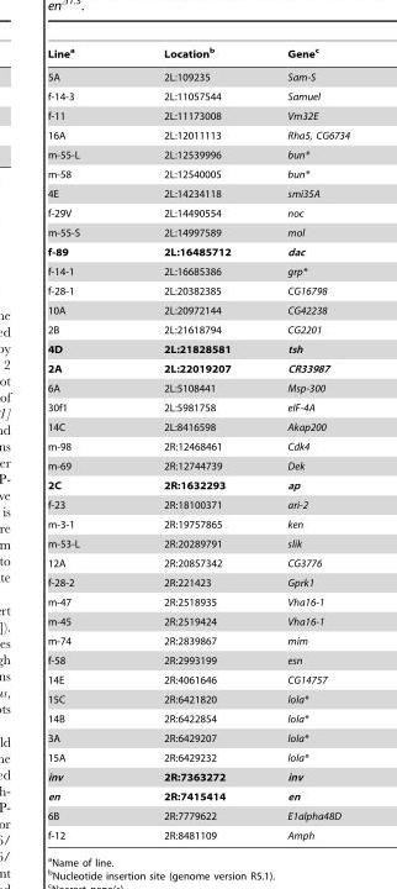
<table><thead><tr><td>Line<sup>a</sup></td><td>Location<sup>b</sup></td><td>Gene<sup>c</sup></td></tr></thead><tbody><tr><td>5A</td><td>2L:109235</td><td>Sam-S</td></tr><tr><td>f-14-3</td><td>2L:11057544</td><td>Samuel</td></tr><tr><td>f-11</td><td>2L:11173008</td><td>Vm32E</td></tr><tr><td>16A</td><td>2L:12011113</td><td>Rha5, CG6734</td></tr><tr><td>m-55-L</td><td>2L:12539996</td><td>bun*</td></tr><tr><td>m-58</td><td>2L:12540005</td><td>bun*</td></tr><tr><td>4E</td><td>2L:14234118</td><td>smi35A</td></tr><tr><td>f-29V</td><td>2L:14490554</td><td>noc</td></tr><tr><td>m-55-S</td><td>2L:14997589</td><td>mol</td></tr><tr><td>f-89</td><td>2L:16485712</td><td>dac</td></tr><tr><td>f-14-1</td><td>2L:16685386</td><td>grp*</td></tr><tr><td>f-28-1</td><td>2L:20382385</td><td>CG16798</td></tr><tr><td>10A</td><td>2L:20972144</td><td>CG42238</td></tr><tr><td>2B</td><td>2L:21618794</td><td>CG2201</td></tr><tr><td>4D</td><td>2L:21828581</td><td>tsh</td></tr><tr><td>2A</td><td>2L:22019207</td><td>CR33987</td></tr><tr><td>6A</td><td>2L:5108441</td><td>Msp-300</td></tr><tr><td>30f1</td><td>2L:5981758</td><td>eIF-4A</td></tr><tr><td>14C</td><td>2L:8416598</td><td>Akap200</td></tr><tr><td>m-98</td><td>2R:12468461</td><td>Cdk4</td></tr><tr><td>m-69</td><td>2R:12744739</td><td>Dek</td></tr><tr><td>2C</td><td>2R:1632293</td><td>ap</td></tr><tr><td>f-23</td><td>2R:18100371</td><td>ari-2</td></tr><tr><td>m-3-1</td><td>2R:19757865</td><td>ken</td></tr><tr><td>m-53-L</td><td>2R:20289791</td><td>slik</td></tr><tr><td>12A</td><td>2R:20857342</td><td>CG3776</td></tr><tr><td>f-28-2</td><td>2R:221423</td><td>Gprk1</td></tr><tr><td>m-47</td><td>2R:2518935</td><td>Vha16-1</td></tr><tr><td>m-45</td><td>2R:2519424</td><td>Vha16-1</td></tr><tr><td>m-74</td><td>2R:2839867</td><td>mim</td></tr><tr><td>f-58</td><td>2R:2993199</td><td>esn</td></tr><tr><td>14E</td><td>2R:4061646</td><td>CG14757</td></tr><tr><td>15C</td><td>2R:6421820</td><td>lola*</td></tr><tr><td>14B</td><td>2R:6422854</td><td>lola*</td></tr><tr><td>3A</td><td>2R:6429207</td><td>lola*</td></tr><tr><td>15A</td><td>2R:6429232</td><td>lola*</td></tr><tr><td>inv</td><td>2R:7363272</td><td>inv</td></tr><tr><td>en</td><td>2R:7415414</td><td>en</td></tr><tr><td>6B</td><td>2R:7779622</td><td>E1alpha48D</td></tr><tr><td>f-12</td><td>2R:8481109</td><td>Amph</td></tr></tbody></table>